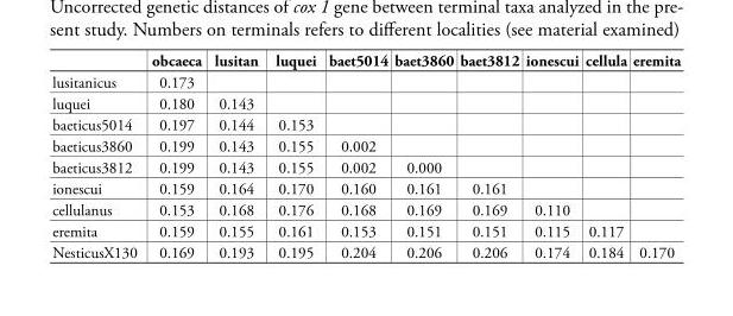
<table><thead><tr><td></td><td>obcaeca</td><td>lusitan</td><td>luquei</td><td>baet5014</td><td>baet3860</td><td>baet3812</td><td>ionescui</td><td>cellula</td><td>eremita</td></tr></thead><tbody><tr><td>lusitanicus</td><td>0.173</td><td></td><td></td><td></td><td></td><td></td><td></td><td></td><td></td></tr><tr><td>luquei</td><td>0.180</td><td>0.143</td><td></td><td></td><td></td><td></td><td></td><td></td><td></td></tr><tr><td>baeticus5014</td><td>0.197</td><td>0.144</td><td>0.153</td><td></td><td></td><td></td><td></td><td></td><td></td></tr><tr><td>baeticus3860</td><td>0.199</td><td>0.143</td><td>0.155</td><td>0.002</td><td></td><td></td><td></td><td></td><td></td></tr><tr><td>baeticus3812</td><td>0.199</td><td>0.143</td><td>0.155</td><td>0.002</td><td>0.000</td><td></td><td></td><td></td><td></td></tr><tr><td>ionescui</td><td>0.159</td><td>0.164</td><td>0.170</td><td>0.160</td><td>0.161</td><td>0.161</td><td></td><td></td><td></td></tr><tr><td>cellulanus</td><td>0.153</td><td>0.168</td><td>0.176</td><td>0.168</td><td>0.169</td><td>0.169</td><td>0.110</td><td></td><td></td></tr><tr><td>eremita</td><td>0.159</td><td>0.155</td><td>0.161</td><td>0.153</td><td>0.151</td><td>0.151</td><td>0.115</td><td>0.117</td><td></td></tr><tr><td>NesticusX130</td><td>0.169</td><td>0.193</td><td>0.195</td><td>0.204</td><td>0.206</td><td>0.206</td><td>0.174</td><td>0.184</td><td>0.170</td></tr></tbody></table>